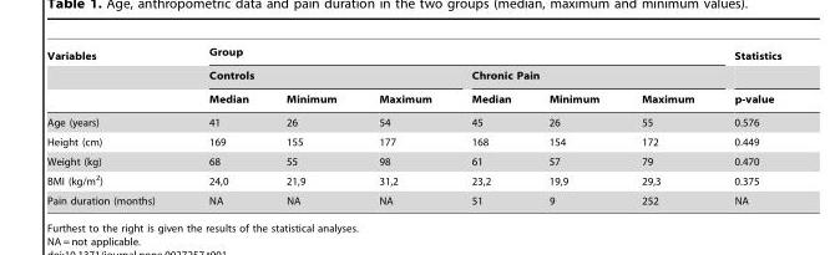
<table><thead><tr><td rowspan="3">Variables</td><td colspan="6">Group</td><td rowspan="3">Statistics p-value</td></tr><tr><td colspan="3">Controls</td><td colspan="3">Chronic Pain</td></tr><tr><td>Median</td><td>Minimum</td><td>Maximum</td><td>Median</td><td>Minimum</td><td>Maximum</td></tr></thead><tbody><tr><td>Age (years)</td><td>41</td><td>26</td><td>54</td><td>45</td><td>26</td><td>55</td><td>0.576</td></tr><tr><td>Height (cm)</td><td>169</td><td>155</td><td>177</td><td>168</td><td>154</td><td>172</td><td>0.449</td></tr><tr><td>Weight (kg)</td><td>68</td><td>55</td><td>98</td><td>61</td><td>57</td><td>79</td><td>0.470</td></tr><tr><td>BMI (kg/m<sup>2</sup>)</td><td>24,0</td><td>21,9</td><td>31,2</td><td>23,2</td><td>19,9</td><td>29,3</td><td>0.375</td></tr><tr><td>Pain duration (months)</td><td>NA</td><td>NA</td><td>NA</td><td>51</td><td>9</td><td>252</td><td>NA</td></tr></tbody></table>